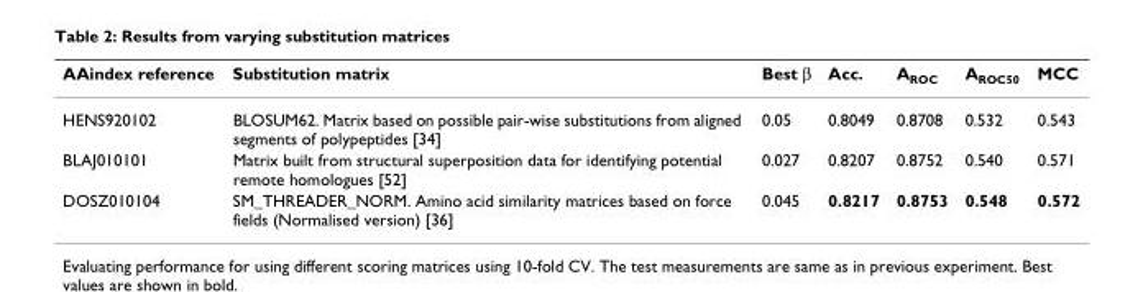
<table><thead><tr><td>AAindex reference</td><td>Substitution matrix</td><td>Best β</td><td>Acc.</td><td>A<sub>ROC</sub></td><td>A<sub>ROC50</sub></td><td>MCC</td></tr></thead><tbody><tr><td>HENS920102</td><td>BLOSUM62. Matrix based on possible pair-wise substitutions from aligned segments of polypeptides [34]</td><td>0.05</td><td>0.8049</td><td>0.8708</td><td>0.532</td><td>0.543</td></tr><tr><td>BLAJ010101</td><td>Matrix built from structural superposition data for identifying potential remote homologues [52]</td><td>0.027</td><td>0.8207</td><td>0.8752</td><td>0.540</td><td>0.571</td></tr><tr><td>DOSZ010104</td><td>SM_THREADER_NORM. Amino acid similarity matrices based on force fields (Normalised version) [36]</td><td>0.045</td><td>0.8217</td><td>0.8753</td><td>0.548</td><td>0.572</td></tr></tbody></table>